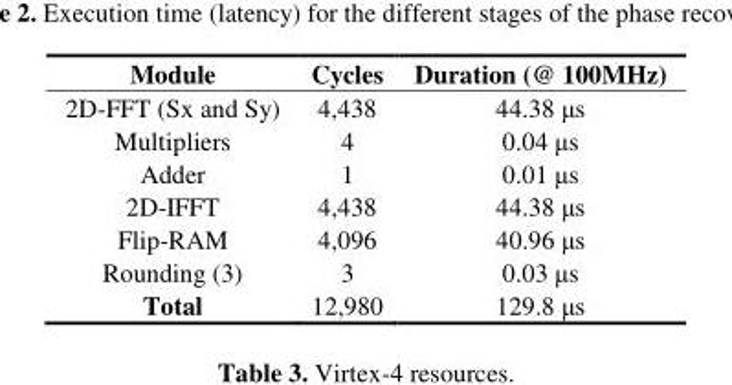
<table><thead><tr><td>Module</td><td>Cycles</td><td>Duration (@ 100MHz)</td></tr></thead><tbody><tr><td>2D-FFT (Sx and Sy)</td><td>4,438</td><td>44.38 µs</td></tr><tr><td>Multipliers</td><td>4</td><td>0.04 µs</td></tr><tr><td>Adder</td><td>1</td><td>0.01 µs</td></tr><tr><td>2D-IFFT</td><td>4,438</td><td>44.38 µs</td></tr><tr><td>Flip-RAM</td><td>4,096</td><td>40.96 µs</td></tr><tr><td>Rounding (3)</td><td>3</td><td>0.03 µs</td></tr><tr><td>Total</td><td>12,980</td><td>129.8 µs</td></tr></tbody></table>